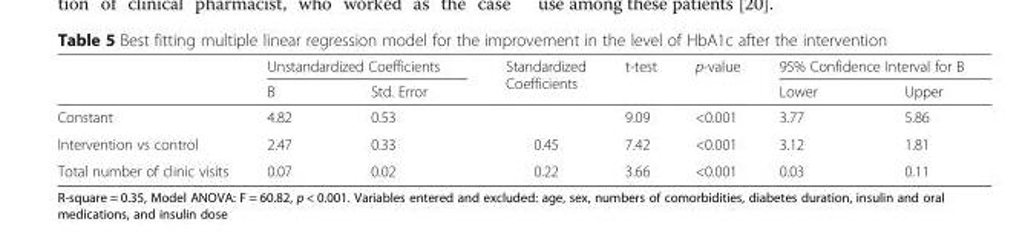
<table><thead><tr><td rowspan="2"></td><td colspan="2">Unstandardized Coefficients</td><td rowspan="2">Standardized Coefficients</td><td rowspan="2">t-test</td><td rowspan="2">p-value</td><td colspan="2">95% Confidence Interval for B</td></tr><tr><td>B</td><td>Std. Error</td><td>Lower</td><td>Upper</td></tr></thead><tbody><tr><td>Constant</td><td>4.82</td><td>0.53</td><td></td><td>9.09</td><td>&lt;0.001</td><td>3.77</td><td>5.86</td></tr><tr><td>Intervention vs control</td><td>2.47</td><td>0.33</td><td>0.45</td><td>7.42</td><td>&lt;0.001</td><td>3.12</td><td>1.81</td></tr><tr><td>Total number of clinic visits</td><td>0.07</td><td>0.02</td><td>0.22</td><td>3.66</td><td>&lt;0.001</td><td>0.03</td><td>0.11</td></tr></tbody></table>